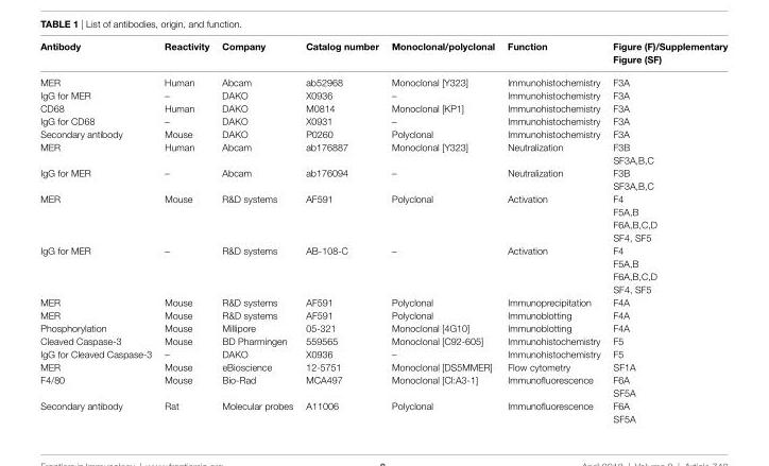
<table><thead><tr><td>antibody</td><td>reactivity</td><td>company</td><td>catalog number</td><td>Monoclonal/polyclonal</td><td>Function</td><td>Figure (F)/supplementary Figure (sF)</td></tr></thead><tbody><tr><td>MER</td><td>Human</td><td>Abcam</td><td>ab52968</td><td>Monoclonal [Y323]</td><td>Immunohistochemistry</td><td>F3A</td></tr><tr><td>IgG for MER</td><td>–</td><td>DAKO</td><td>X0936</td><td>–</td><td>Immunohistochemistry</td><td>F3A</td></tr><tr><td>CD68</td><td>Human</td><td>DAKO</td><td>M0814</td><td>Monoclonal [KP1]</td><td>Immunohistochemistry</td><td>F3A</td></tr><tr><td>IgG for CD68</td><td>–</td><td>DAKO</td><td>X0931</td><td>–</td><td>Immunohistochemistry</td><td>F3A</td></tr><tr><td>Secondary antibody</td><td>Mouse</td><td>DAKO</td><td>P0260</td><td>Polyclonal</td><td>Immunohistochemistry</td><td>F3A</td></tr><tr><td>MER</td><td>Human</td><td>Abcam</td><td>ab176887</td><td>Monoclonal [Y323]</td><td>Neutralization</td><td>F3B SF3A,B,C</td></tr><tr><td>IgG for MER</td><td>–</td><td>Abcam</td><td>ab176094</td><td>–</td><td>Neutralization</td><td>F3B SF3A,B,C</td></tr><tr><td>MER</td><td>Mouse</td><td>R&amp;D systems</td><td>AF591</td><td>Polyclonal</td><td>Activation</td><td>F4 F5A,B F6A,B,C,D SF4, SF5</td></tr><tr><td>IgG for MER</td><td>–</td><td>R&amp;D systems</td><td>AB-108-C</td><td>–</td><td>Activation</td><td>F4 F5A,B F6A,B,C,D SF4, SF5</td></tr><tr><td>MER</td><td>Mouse</td><td>R&amp;D systems</td><td>AF591</td><td>Polyclonal</td><td>Immunoprecipitation</td><td>F4A</td></tr><tr><td>MER</td><td>Mouse</td><td>R&amp;D systems</td><td>AF591</td><td>Polyclonal</td><td>Immunoblotting</td><td>F4A</td></tr><tr><td>Phosphorylation</td><td>Mouse</td><td>Millipore</td><td>05-321</td><td>Monoclonal [4G10]</td><td>Immunoblotting</td><td>F4A</td></tr><tr><td>Cleaved Caspase-3</td><td>Mouse</td><td>BD Pharmingen</td><td>559565</td><td>Monoclonal [C92-605]</td><td>Immunohistochemistry</td><td>F5</td></tr><tr><td>IgG for Cleaved Caspase-3</td><td>–</td><td>DAKO</td><td>X0936</td><td>–</td><td>Immunohistochemistry</td><td>F5</td></tr><tr><td>MER</td><td>Mouse</td><td>eBioscience</td><td>12-5751</td><td>Monoclonal [DS5MMER]</td><td>Flow cytometry</td><td>SF1A</td></tr><tr><td>F4/80</td><td>Mouse</td><td>Bio-Rad</td><td>MCA497</td><td>Monoclonal [Cl:A3-1]</td><td>Immunofluorescence</td><td>F6A SF5A</td></tr><tr><td>Secondary antibody</td><td>Rat</td><td>Molecular probes</td><td>A11006</td><td>Polyclonal</td><td>Immunofluorescence</td><td>F6A SF5A</td></tr></tbody></table>